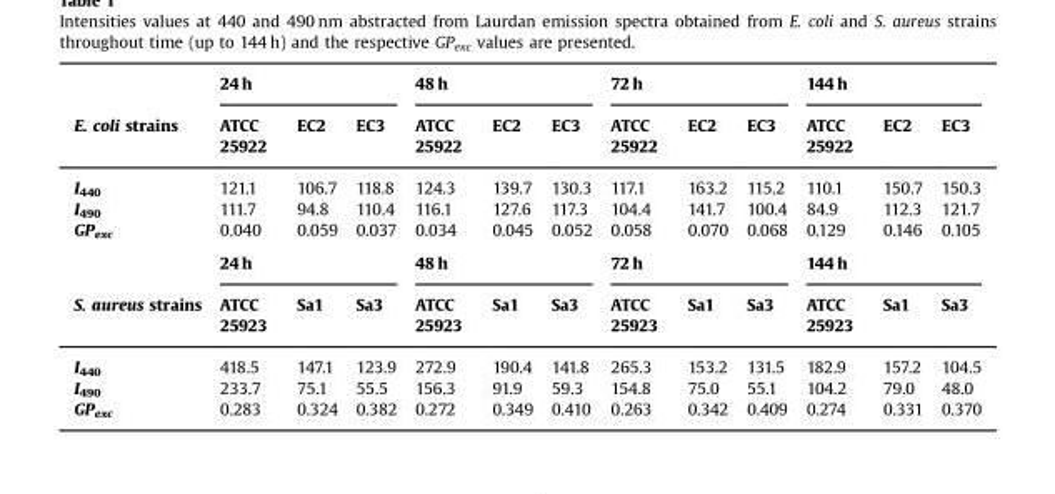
<table><thead><tr><td rowspan="2">E. coli strains</td><td colspan="3">24 h</td><td colspan="3">48 h</td><td colspan="3">72 h</td><td colspan="3">144 h</td></tr><tr><td>ATCC 25922</td><td>EC2</td><td>EC3</td><td>ATCC 25922</td><td>EC2</td><td>EC3</td><td>ATCC 25922</td><td>EC2</td><td>EC3</td><td>ATCC 25922</td><td>EC2</td><td>EC3</td></tr></thead><tbody><tr><td>I<sub>440</sub></td><td>121.1</td><td>106.7</td><td>118.8</td><td>124.3</td><td>139.7</td><td>130.3</td><td>117.1</td><td>163.2</td><td>115.2</td><td>110.1</td><td>150.7</td><td>150.3</td></tr><tr><td>I<sub>490</sub></td><td>111.7</td><td>94.8</td><td>110.4</td><td>116.1</td><td>127.6</td><td>117.3</td><td>104.4</td><td>141.7</td><td>100.4</td><td>84.9</td><td>112.3</td><td>121.7</td></tr><tr><td rowspan="2">GP<sub>exc</sub></td><td>0.040</td><td>0.059</td><td>0.037</td><td>0.034</td><td>0.045</td><td>0.052</td><td>0.058</td><td>0.070</td><td>0.068</td><td>0.129</td><td>0.146</td><td>0.105</td></tr><tr><td colspan="3">24 h</td><td colspan="3">48 h</td><td colspan="3">72 h</td><td colspan="3">144 h</td></tr><tr><td>S. aureus strains</td><td>ATCC 25923</td><td>Sa1</td><td>Sa3</td><td>ATCC 25923</td><td>Sa1</td><td>Sa3</td><td>ATCC 25923</td><td>Sa1</td><td>Sa3</td><td>ATCC 25923</td><td>Sa1</td><td>Sa3</td></tr><tr><td>I<sub>440</sub></td><td>418.5</td><td>147.1</td><td>123.9</td><td>272.9</td><td>190.4</td><td>141.8</td><td>265.3</td><td>153.2</td><td>131.5</td><td>182.9</td><td>157.2</td><td>104.5</td></tr><tr><td>I<sub>490</sub></td><td>233.7</td><td>75.1</td><td>55.5</td><td>156.3</td><td>91.9</td><td>59.3</td><td>154.8</td><td>75.0</td><td>55.1</td><td>104.2</td><td>79.0</td><td>48.0</td></tr><tr><td>GP<sub>exc</sub></td><td>0.283</td><td>0.324</td><td>0.382</td><td>0.272</td><td>0.349</td><td>0.410</td><td>0.263</td><td>0.342</td><td>0.409</td><td>0.274</td><td>0.331</td><td>0.370</td></tr></tbody></table>